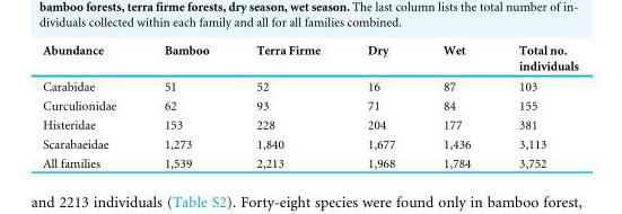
<table><thead><tr><td>Abundance</td><td>Bamboo</td><td>Terra Firme</td><td>Dry</td><td>Wet</td><td>Total no. individuals</td></tr></thead><tbody><tr><td>Carabidae</td><td>51</td><td>52</td><td>16</td><td>87</td><td>103</td></tr><tr><td>Curculionidae</td><td>62</td><td>93</td><td>71</td><td>84</td><td>155</td></tr><tr><td>Histeridae</td><td>153</td><td>228</td><td>204</td><td>177</td><td>381</td></tr><tr><td>Scarabaeidae</td><td>1,273</td><td>1,840</td><td>1,677</td><td>1,436</td><td>3,113</td></tr><tr><td>All families</td><td>1,539</td><td>2,213</td><td>1,968</td><td>1,784</td><td>3,752</td></tr></tbody></table>